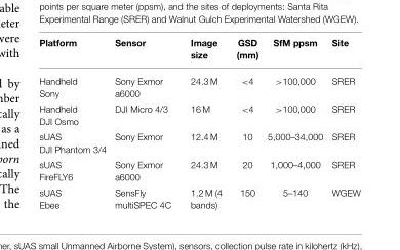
<table><thead><tr><td>Platform</td><td>Sensor</td><td>Image size</td><td>GSD (mm)</td><td>SfM ppsm</td><td>Site</td></tr></thead><tbody><tr><td>Handheld Sony</td><td>Sony Exmor a6000</td><td>24.3 M</td><td>&lt;4</td><td>&gt;100,000</td><td>SRER</td></tr><tr><td>Handheld DJI Osmo</td><td>DJI Micro 4/3</td><td>16 M</td><td>&lt;4</td><td>&gt;100,000</td><td>SRER</td></tr><tr><td>sUAS DJI Phantom 3/4</td><td>Sony Exmor</td><td>12.4 M</td><td>10</td><td>5,000–34,000</td><td>SRER</td></tr><tr><td>sUAS FireFLY6</td><td>Sony Exmor a6000</td><td>24.3 M</td><td>20</td><td>1,000–4,000</td><td>SRER</td></tr><tr><td>sUAS Ebee</td><td>SensFly multiSPEC 4C</td><td>1.2 M (4 bands)</td><td>150</td><td>5–140</td><td>WGEW</td></tr></tbody></table>